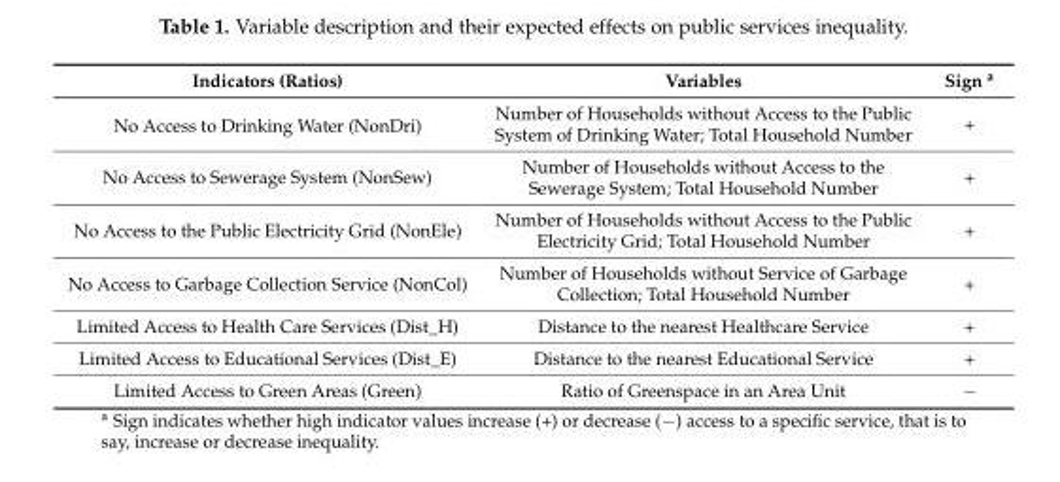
<table><thead><tr><td>Indicators (Ratios)</td><td>Variables</td><td>Sign <sup>a</sup></td></tr></thead><tbody><tr><td>No Access to Drinking Water (NonDri)</td><td>Number of Households without Access to the Public System of Drinking Water; Total Household Number</td><td>+</td></tr><tr><td>No Access to Sewerage System (NonSew)</td><td>Number of Households without Access to the Sewerage System; Total Household Number</td><td>+</td></tr><tr><td>No Access to the Public Electricity Grid (NonEle)</td><td>Number of Households without Access to the Public Electricity Grid; Total Household Number</td><td>+</td></tr><tr><td>No Access to Garbage Collection Service (NonCol)</td><td>Number of Households without Service of Garbage Collection; Total Household Number</td><td>+</td></tr><tr><td>Limited Access to Health Care Services (Dist_H)</td><td>Distance to the nearest Healthcare Service</td><td>+</td></tr><tr><td>Limited Access to Educational Services (Dist_E)</td><td>Distance to the nearest Educational Service</td><td>+</td></tr><tr><td>Limited Access to Green Areas (Green)</td><td>Ratio of Greenspace in an Area Unit</td><td>−</td></tr></tbody></table>